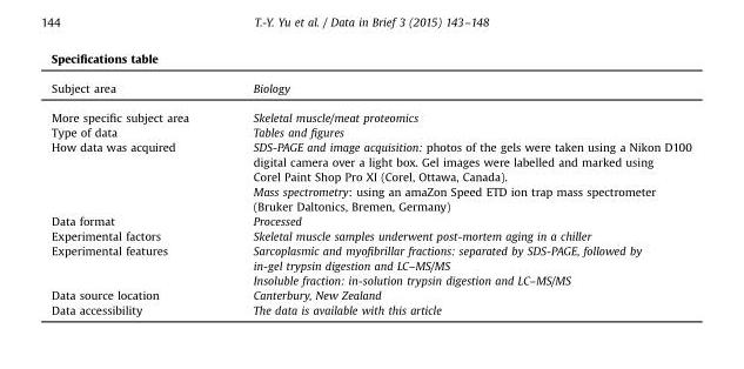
<table><tbody><tr><td colspan="2">Specifications table</td></tr><tr><td>Subject area</td><td>Biology</td></tr><tr><td>More specific subject area</td><td>Skeletal muscle/meat proteomics</td></tr><tr><td>Type of data</td><td>Tables and figures</td></tr><tr><td rowspan="2">How data was acquired</td><td>SDS-PAGE and image acquisition: photos of the gels were taken using a Nikon D100 digital camera over a light box. Gel images were labelled and marked using Corel Paint Shop Pro XI (Corel, Ottawa, Canada).</td></tr><tr><td>Mass spectrometry: using an amaZon Speed ETD ion trap mass spectrometer (Bruker Daltonics, Bremen, Germany)</td></tr><tr><td>Data format</td><td>Processed</td></tr><tr><td>Experimental factors</td><td>Skeletal muscle samples underwent post-mortem aging in a chiller</td></tr><tr><td rowspan="2">Experimental features</td><td>Sarcoplasmic and myofibrillar fractions: separated by SDS-PAGE, followed by in-gel trypsin digestion and LC–MS/MS</td></tr><tr><td>Insoluble fraction: in-solution trypsin digestion and LC–MS/MS</td></tr><tr><td>Data source location</td><td>Canterbury, New Zealand</td></tr><tr><td>Data accessibility</td><td>The data is available with this article</td></tr></tbody></table>